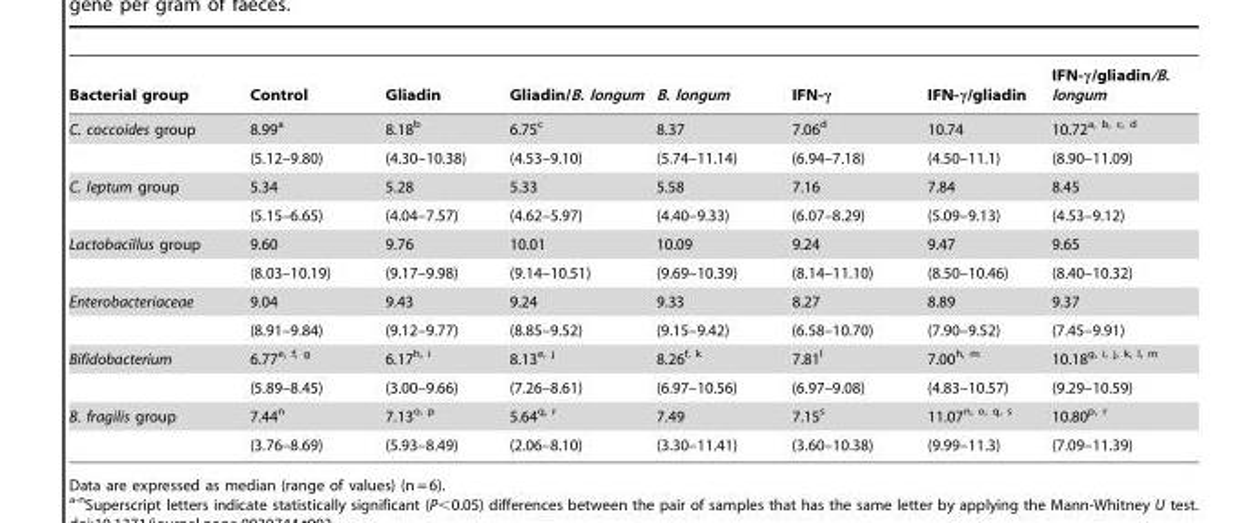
<table><thead><tr><td>Bacterial group</td><td>Control</td><td>Gliadin</td><td>Gliadin/B. longum</td><td>B. longum</td><td>IFN-γ</td><td>IFN-γ/gliadin</td><td>IFN-γ/gliadin/B. longum</td></tr></thead><tbody><tr><td rowspan="2">C. coccoides group</td><td>8.99<sup>a</sup></td><td>8.18<sup>b</sup></td><td>6.75<sup>c</sup></td><td>8.37</td><td>7.06<sup>d</sup></td><td>10.74</td><td>10.72<sup>a,</sup> b<sup>,</sup> c<sup>,</sup> d</td></tr><tr><td>(5.12–9.80)</td><td>(4.30–10.38)</td><td>(4.53–9.10)</td><td>(5.74–11.14)</td><td>(6.94–7.18)</td><td>(4.50–11.1)</td><td>(8.90–11.09)</td></tr><tr><td rowspan="2">C. leptum group</td><td>5.34</td><td>5.28</td><td>5.33</td><td>5.58</td><td>7.16</td><td>7.84</td><td>8.45</td></tr><tr><td>(5.15–6.65)</td><td>(4.04–7.57)</td><td>(4.62–5.97)</td><td>(4.40–9.33)</td><td>(6.07–8.29)</td><td>(5.09–9.13)</td><td>(4.53–9.12)</td></tr><tr><td rowspan="2">Lactobacillus group</td><td>9.60</td><td>9.76</td><td>10.01</td><td>10.09</td><td>9.24</td><td>9.47</td><td>9.65</td></tr><tr><td>(8.03–10.19)</td><td>(9.17–9.98)</td><td>(9.14–10.51)</td><td>(9.69–10.39)</td><td>(8.14–11.10)</td><td>(8.50–10.46)</td><td>(8.40–10.32)</td></tr><tr><td rowspan="2">Enterobacteriaceae</td><td>9.04</td><td>9.43</td><td>9.24</td><td>9.33</td><td>8.27</td><td>8.89</td><td>9.37</td></tr><tr><td>(8.91–9.84)</td><td>(9.12–9.77)</td><td>(8.85–9.52)</td><td>(9.15–9.42)</td><td>(6.58–10.70)</td><td>(7.90–9.52)</td><td>(7.45–9.91)</td></tr><tr><td rowspan="2">Bifidobacterium</td><td>6.77<sup>e,</sup> f<sup>,</sup> g</td><td>6.17<sup>h,</sup> i</td><td>8.13<sup>e,</sup> j</td><td>8.26<sup>f,</sup> k</td><td>7.81<sup>l</sup></td><td>7.00<sup>h,</sup> m</td><td>10.18<sup>g,</sup> i<sup>,</sup> j<sup>,</sup> k<sup>,</sup> l<sup>,</sup> m</td></tr><tr><td>(5.89–8.45)</td><td>(3.00–9.66)</td><td>(7.26–8.61)</td><td>(6.97–10.56)</td><td>(6.97–9.08)</td><td>(4.83–10.57)</td><td>(9.29–10.59)</td></tr><tr><td rowspan="2">B. fragilis group</td><td>7.44<sup>n</sup></td><td>7.13<sup>o, p</sup></td><td>5.64<sup>q, r</sup></td><td>7.49</td><td>7.15<sup>s</sup></td><td>11.07<sup>n, o, q, s</sup></td><td>10.80<sup>p, r</sup></td></tr><tr><td>(3.76–8.69)</td><td>(5.93–8.49)</td><td>(2.06–8.10)</td><td>(3.30–11.41)</td><td>(3.60–10.38)</td><td>(9.99–11.3)</td><td>(7.09–11.39)</td></tr></tbody></table>